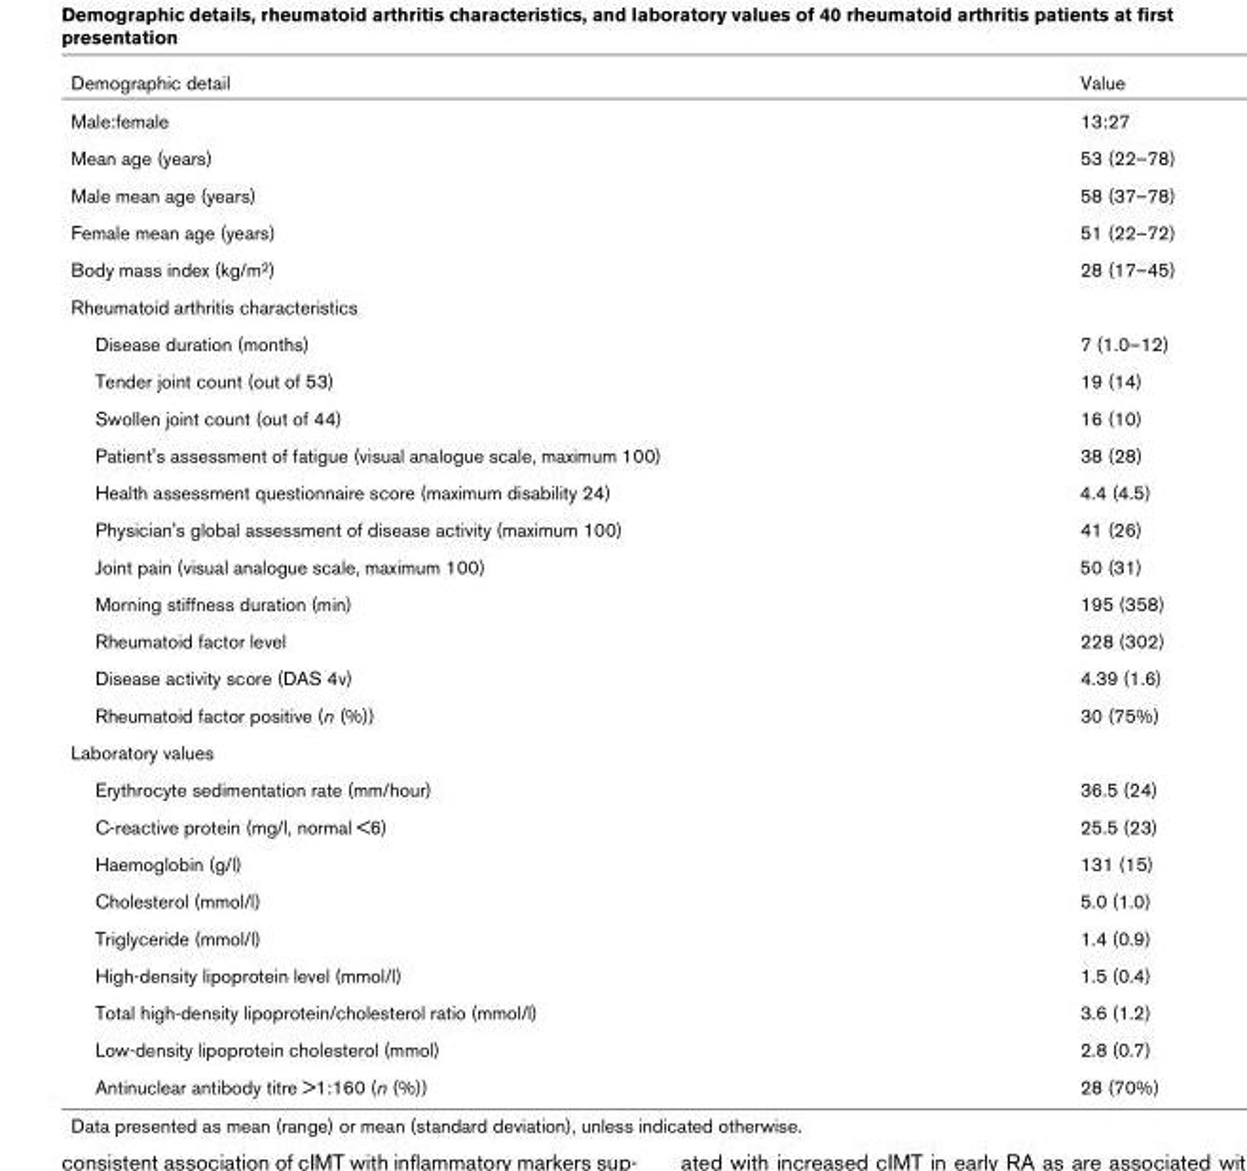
<table><thead><tr><td>Demographic detail</td><td>Value</td></tr></thead><tbody><tr><td>Male:female</td><td>13:27</td></tr><tr><td>Mean age (years)</td><td>53 (22–78)</td></tr><tr><td>Male mean age (years)</td><td>58 (37–78)</td></tr><tr><td>Female mean age (years)</td><td>51 (22–72)</td></tr><tr><td>Body mass index (kg/m<sup>2</sup>)</td><td>28 (17–45)</td></tr><tr><td colspan="2">Rheumatoid arthritis characteristics</td></tr><tr><td>Disease duration (months)</td><td>7 (1.0–12)</td></tr><tr><td>Tender joint count (out of 53)</td><td>19 (14)</td></tr><tr><td>Swollen joint count (out of 44)</td><td>16 (10)</td></tr><tr><td>Patient&#x27;s assessment of fatigue (visual analogue scale, maximum 100)</td><td>38 (28)</td></tr><tr><td>Health assessment questionnaire score (maximum disability 24)</td><td>4.4 (4.5)</td></tr><tr><td>Physician&#x27;s global assessment of disease activity (maximum 100)</td><td>41 (26)</td></tr><tr><td>Joint pain (visual analogue scale, maximum 100)</td><td>50 (31)</td></tr><tr><td>Morning stiffness duration (min)</td><td>195 (358)</td></tr><tr><td>Rheumatoid factor level</td><td>228 (302)</td></tr><tr><td>Disease activity score (DAS 4v)</td><td>4.39 (1.6)</td></tr><tr><td>Rheumatoid factor positive (n (%))</td><td>30 (75%)</td></tr><tr><td colspan="2">Laboratory values</td></tr><tr><td>Erythrocyte sedimentation rate (mm/hour)</td><td>36.5 (24)</td></tr><tr><td>C-reactive protein (mg/l, normal &lt;6)</td><td>25.5 (23)</td></tr><tr><td>Haemoglobin (g/l)</td><td>131 (15)</td></tr><tr><td>Cholesterol (mmol/l)</td><td>5.0 (1.0)</td></tr><tr><td>Triglyceride (mmol/l)</td><td>1.4 (0.9)</td></tr><tr><td>High-density lipoprotein level (mmol/l)</td><td>1.5 (0.4)</td></tr><tr><td>Total high-density lipoprotein/cholesterol ratio (mmol/l)</td><td>3.6 (1.2)</td></tr><tr><td>Low-density lipoprotein cholesterol (mmol)</td><td>2.8 (0.7)</td></tr><tr><td>Antinuclear antibody titre &gt;1:160 (n (%))</td><td>28 (70%)</td></tr></tbody></table>